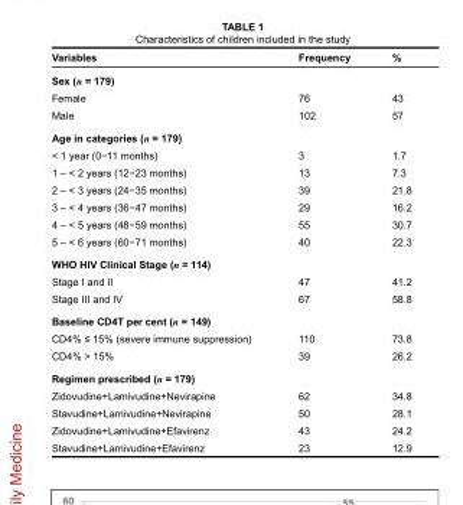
<table><thead><tr><td>Variables</td><td>Frequency</td><td>%</td></tr></thead><tbody><tr><td colspan="3">Sex (n = 179)</td></tr><tr><td>Female</td><td>76</td><td>43</td></tr><tr><td>Male</td><td>102</td><td>57</td></tr><tr><td colspan="3">Age in categories (n = 179)</td></tr><tr><td>&lt; 1 year (0−11 months)</td><td>3</td><td>1.7</td></tr><tr><td>1 – &lt; 2 years (12−23 months)</td><td>13</td><td>7.3</td></tr><tr><td>2 – &lt; 3 years (24−35 months)</td><td>39</td><td>21.8</td></tr><tr><td>3 – &lt; 4 years (36−47 months)</td><td>29</td><td>16.2</td></tr><tr><td>4 – &lt; 5 years (48−59 months)</td><td>55</td><td>30.7</td></tr><tr><td>5 – &lt; 6 years (60−71 months)</td><td>40</td><td>22.3</td></tr><tr><td colspan="3">WHO HIV Clinical Stage (n = 114)</td></tr><tr><td>Stage I and II</td><td>47</td><td>41.2</td></tr><tr><td>Stage III and IV</td><td>67</td><td>58.8</td></tr><tr><td colspan="3">Baseline CD4T per cent (n = 149)</td></tr><tr><td>CD4% ≤ 15% (severe immune suppression)</td><td>110</td><td>73.8</td></tr><tr><td>CD4% &gt; 15%</td><td>39</td><td>26.2</td></tr><tr><td colspan="3">Regimen prescribed (n = 179)</td></tr><tr><td>Zidovudine+Lamivudine+Nevirapine</td><td>62</td><td>34.8</td></tr><tr><td>Stavudine+Lamivudine+Nevirapine</td><td>50</td><td>28.1</td></tr><tr><td>Zidovudine+Lamivudine+Efavirenz</td><td>43</td><td>24.2</td></tr><tr><td>Stavudine+Lamivudine+Efavirenz</td><td>23</td><td>12.9</td></tr></tbody></table>